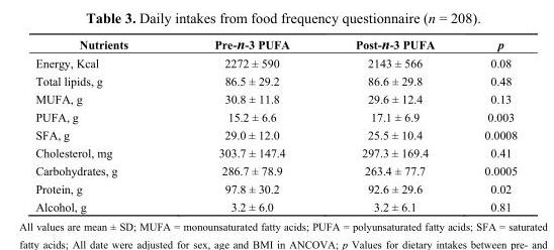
<table><thead><tr><td>Nutrients</td><td>Pre-n-3 PUFA</td><td>Post-n-3 PUFA</td><td>p</td></tr></thead><tbody><tr><td>Energy, Kcal</td><td>2272 ± 590</td><td>2143 ± 566</td><td>0.08</td></tr><tr><td>Total lipids, g</td><td>86.5 ± 29.2</td><td>86.6 ± 29.8</td><td>0.48</td></tr><tr><td>MUFA, g</td><td>30.8 ± 11.8</td><td>29.6 ± 12.4</td><td>0.13</td></tr><tr><td>PUFA, g</td><td>15.2 ± 6.6</td><td>17.1 ± 6.9</td><td>0.003</td></tr><tr><td>SFA, g</td><td>29.0 ± 12.0</td><td>25.5 ± 10.4</td><td>0.0008</td></tr><tr><td>Cholesterol, mg</td><td>303.7 ± 147.4</td><td>297.3 ± 169.4</td><td>0.41</td></tr><tr><td>Carbohydrates, g</td><td>286.7 ± 78.9</td><td>263.4 ± 77.7</td><td>0.0005</td></tr><tr><td>Protein, g</td><td>97.8 ± 30.2</td><td>92.6 ± 29.6</td><td>0.02</td></tr><tr><td>Alcohol, g</td><td>3.2 ± 6.0</td><td>3.2 ± 6.1</td><td>0.81</td></tr></tbody></table>